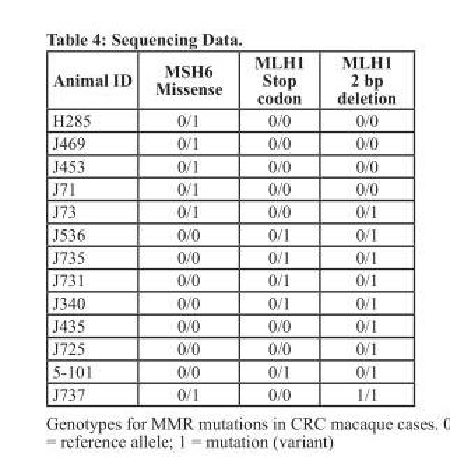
<table><thead><tr><td>Animal ID</td><td>MSH6 Missense</td><td>MLH1 Stop codon</td><td>MLH1 2 bp deletion</td></tr></thead><tbody><tr><td>H285</td><td>0/1</td><td>0/0</td><td>0/0</td></tr><tr><td>J469</td><td>0/1</td><td>0/0</td><td>0/0</td></tr><tr><td>J453</td><td>0/1</td><td>0/0</td><td>0/0</td></tr><tr><td>J71</td><td>0/1</td><td>0/0</td><td>0/0</td></tr><tr><td>J73</td><td>0/1</td><td>0/0</td><td>0/1</td></tr><tr><td>J536</td><td>0/0</td><td>0/1</td><td>0/1</td></tr><tr><td>J735</td><td>0/0</td><td>0/1</td><td>0/1</td></tr><tr><td>J731</td><td>0/0</td><td>0/1</td><td>0/1</td></tr><tr><td>J340</td><td>0/0</td><td>0/1</td><td>0/1</td></tr><tr><td>J435</td><td>0/0</td><td>0/0</td><td>0/1</td></tr><tr><td>J725</td><td>0/0</td><td>0/0</td><td>0/1</td></tr><tr><td>5-101</td><td>0/0</td><td>0/1</td><td>0/1</td></tr><tr><td>J737</td><td>0/1</td><td>0/0</td><td>1/1</td></tr></tbody></table>